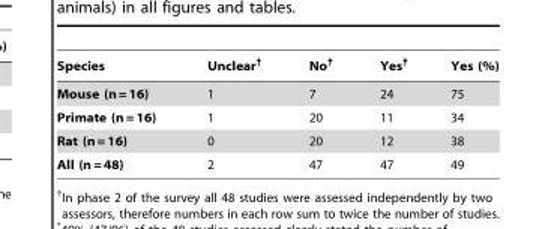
<table><thead><tr><td>Species</td><td>Unclear†</td><td>No†</td><td>Yes†</td><td>Yes (%)</td></tr></thead><tbody><tr><td>Mouse (n = 16)</td><td>1</td><td>7</td><td>24</td><td>75</td></tr><tr><td>Primate (n = 16)</td><td>1</td><td>20</td><td>11</td><td>34</td></tr><tr><td>Rat (n = 16)</td><td>0</td><td>20</td><td>12</td><td>38</td></tr><tr><td>All (n = 48)</td><td>2</td><td>47</td><td>47</td><td>49</td></tr></tbody></table>